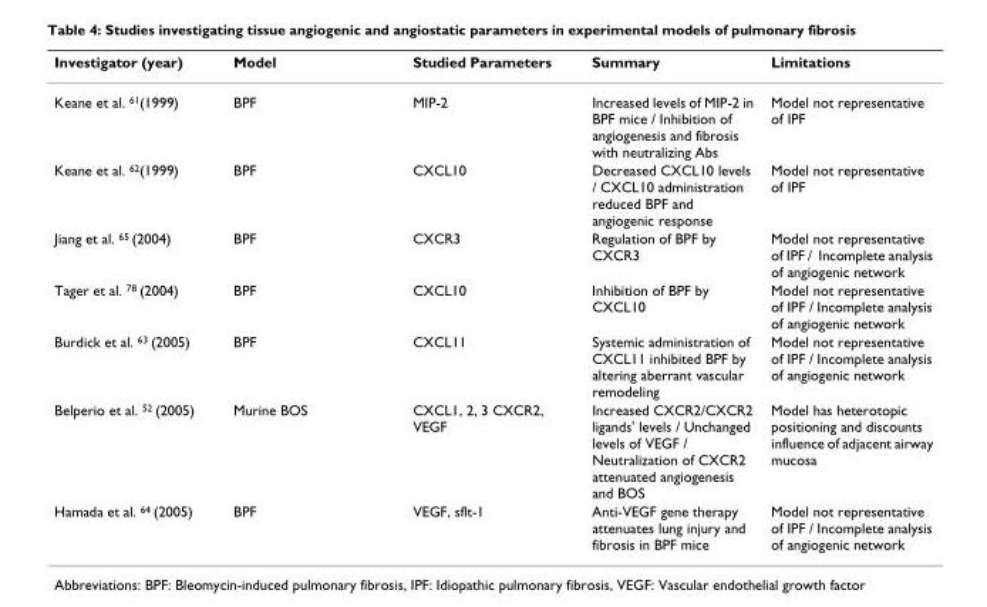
<table><thead><tr><td>Investigator (year)</td><td>Model</td><td>Studied Parameters</td><td>Summary</td><td>Limitations</td></tr></thead><tbody><tr><td>Keane et al. <sup>61</sup>(1999)</td><td>BPF</td><td>MIP-2</td><td>Increased levels of MIP-2 in BPF mice / Inhibition of angiogenesis and fibrosis with neutralizing Abs</td><td>Model not representative of IPF</td></tr><tr><td>Keane et al. <sup>62</sup>(1999)</td><td>BPF</td><td>CXCL10</td><td>Decreased CXCL10 levels / CXCL10 administration reduced BPF and angiogenic response</td><td>Model not representative of IPF</td></tr><tr><td>Jiang et al. <sup>65</sup> (2004)</td><td>BPF</td><td>CXCR3</td><td>Regulation of BPF by CXCR3</td><td>Model not representative of IPF / Incomplete analysis of angiogenic network</td></tr><tr><td>Tager et al. <sup>78</sup> (2004)</td><td>BPF</td><td>CXCL10</td><td>Inhibition of BPF by CXCL10</td><td>Model not representative of IPF / Incomplete analysis of angiogenic network</td></tr><tr><td>Burdick et al. <sup>63</sup> (2005)</td><td>BPF</td><td>CXCL11</td><td>Systemic administration of CXCL11 inhibited BPF by altering aberrant vascular remodeling</td><td>Model not representative of IPF / Incomplete analysis of angiogenic network</td></tr><tr><td>Belperio et al. <sup>52</sup> (2005)</td><td>Murine BOS</td><td>CXCL1, 2, 3 CXCR2, VEGF</td><td>Increased CXCR2/CXCR2 ligands&#x27; levels / Unchanged levels of VEGF / Neutralization of CXCR2 attenuated angiogenesis and BOS</td><td>Model has heterotopic positioning and discounts influence of adjacent airway mucosa</td></tr><tr><td>Hamada et al. <sup>64</sup> (2005)</td><td>BPF</td><td>VEGF, sflt-1</td><td>Anti-VEGF gene therapy attenuates lung injury and fibrosis in BPF mice</td><td>Model not representative of IPF / Incomplete analysis of angiogenic network</td></tr></tbody></table>